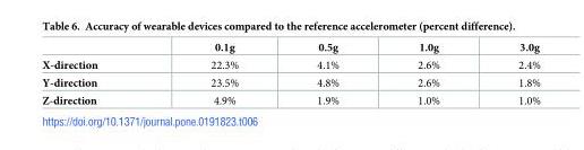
<table><thead><tr><td></td><td>0.1g</td><td>0.5g</td><td>1.0g</td><td>3.0g</td></tr></thead><tbody><tr><td>X-direction</td><td>22.3%</td><td>4.1%</td><td>2.6%</td><td>2.4%</td></tr><tr><td>Y-direction</td><td>23.5%</td><td>4.8%</td><td>2.6%</td><td>1.8%</td></tr><tr><td>Z-direction</td><td>4.9%</td><td>1.9%</td><td>1.0%</td><td>1.0%</td></tr></tbody></table>